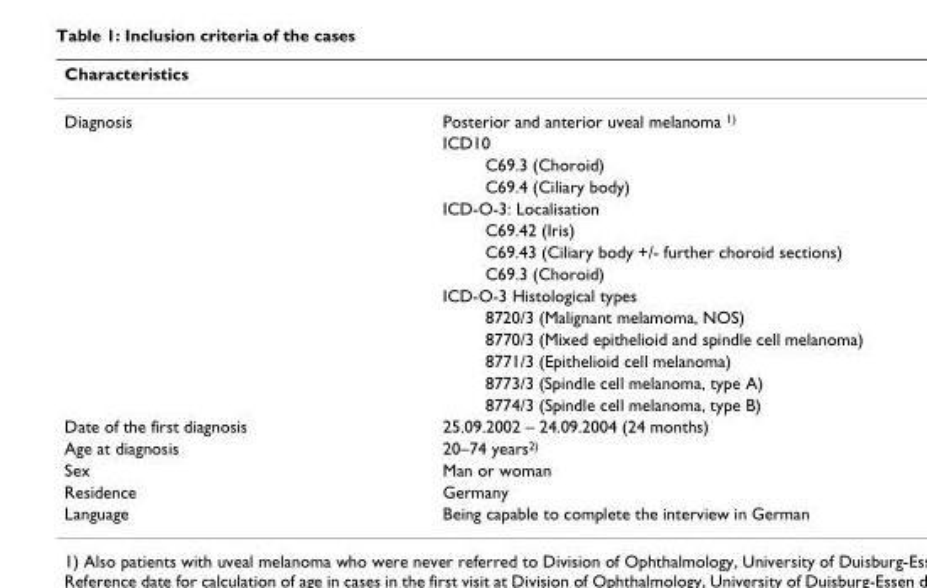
<table><thead><tr><td colspan="2">Characteristics</td></tr><tr><td>Diagnosis</td><td>Posterior and anterior uveal melanoma 1)</td></tr></thead><tbody><tr><td></td><td>ICD10</td></tr><tr><td></td><td>C69.3 (Choroid)</td></tr><tr><td></td><td>C69.4 (Ciliary body)</td></tr><tr><td></td><td>ICD-O-3: Localisation</td></tr><tr><td></td><td>C69.42 (Iris)</td></tr><tr><td></td><td>C69.43 (Ciliary body +/- further choroid sections)</td></tr><tr><td></td><td>C69.3 (Choroid)</td></tr><tr><td></td><td>ICD-O-3 Histological types</td></tr><tr><td></td><td>8720/3 (Malignant melamoma, NOS)</td></tr><tr><td></td><td>8770/3 (Mixed epithelioid and spindle cell melanoma)</td></tr><tr><td></td><td>8771/3 (Epithelioid cell melanoma)</td></tr><tr><td></td><td>8773/3 (Spindle cell melanoma, type A)</td></tr><tr><td></td><td>8774/3 (Spindle cell melanoma, type B)</td></tr><tr><td>Date of the first diagnosis</td><td>25.09.2002 – 24.09.2004 (24 months)</td></tr><tr><td>Age at diagnosis</td><td>20–74 years2)</td></tr><tr><td>Sex</td><td>Man or woman</td></tr><tr><td>Residence</td><td>Germany</td></tr><tr><td>Language</td><td>Being capable to complete the interview in German</td></tr></tbody></table>